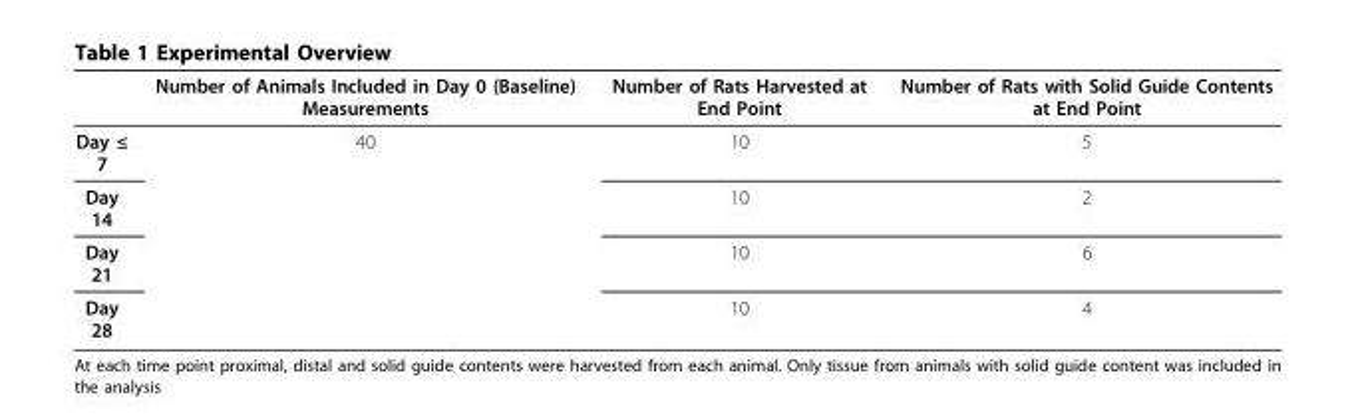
<table><thead><tr><td></td><td>Number of Animals Included in Day 0 (Baseline) Measurements</td><td>Number of Rats Harvested at End Point</td><td>Number of Rats with Solid Guide Contents at End Point</td></tr></thead><tbody><tr><td>Day ≤ 7</td><td>40</td><td>10</td><td>5</td></tr><tr><td>Day 14</td><td></td><td>10</td><td>2</td></tr><tr><td>Day 21</td><td></td><td>10</td><td>6</td></tr><tr><td>Day 28</td><td></td><td>10</td><td>4</td></tr></tbody></table>